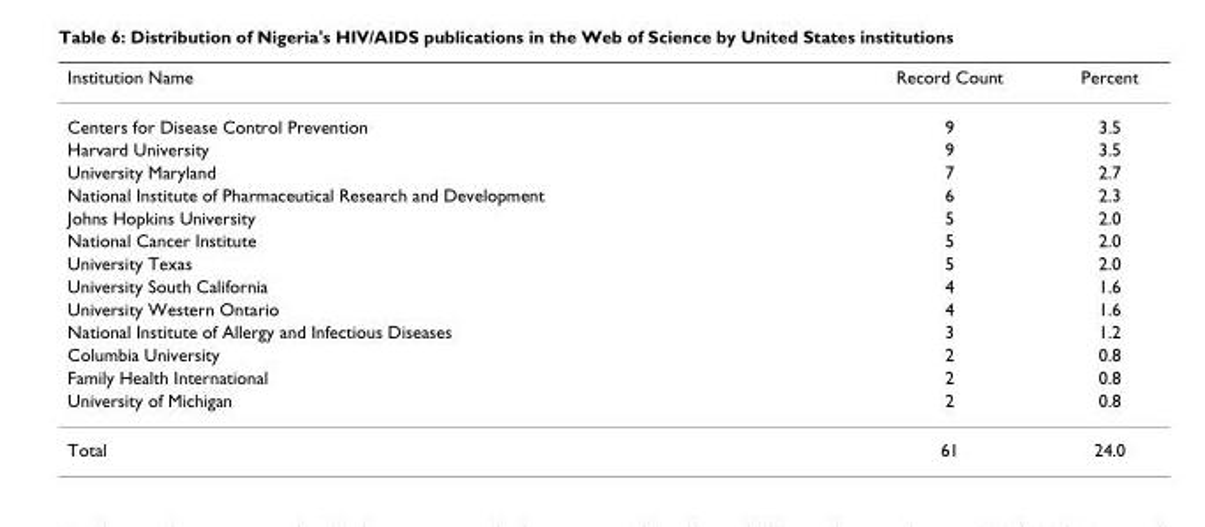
<table><thead><tr><td>Institution Name</td><td>Record Count</td><td>Percent</td></tr></thead><tbody><tr><td>Centers for Disease Control Prevention</td><td>9</td><td>3.5</td></tr><tr><td>Harvard University</td><td>9</td><td>3.5</td></tr><tr><td>University Maryland</td><td>7</td><td>2.7</td></tr><tr><td>National Institute of Pharmaceutical Research and Development</td><td>6</td><td>2.3</td></tr><tr><td>Johns Hopkins University</td><td>5</td><td>2.0</td></tr><tr><td>National Cancer Institute</td><td>5</td><td>2.0</td></tr><tr><td>University Texas</td><td>5</td><td>2.0</td></tr><tr><td>University South California</td><td>4</td><td>1.6</td></tr><tr><td>University Western Ontario</td><td>4</td><td>1.6</td></tr><tr><td>National Institute of Allergy and Infectious Diseases</td><td>3</td><td>1.2</td></tr><tr><td>Columbia University</td><td>2</td><td>0.8</td></tr><tr><td>Family Health International</td><td>2</td><td>0.8</td></tr><tr><td>University of Michigan</td><td>2</td><td>0.8</td></tr><tr><td>Total</td><td>61</td><td>24.0</td></tr></tbody></table>